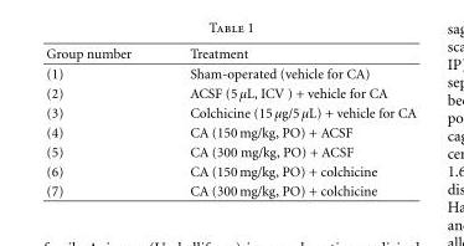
<table><thead><tr><td>Group number</td><td>Treatment</td></tr></thead><tbody><tr><td>(1)</td><td>Sham-operated (vehicle for CA)</td></tr><tr><td>(2)</td><td>ACSF (5 μL, ICV ) + vehicle for CA</td></tr><tr><td>(3)</td><td>Colchicine (15 μg/5 μL) + vehicle for CA</td></tr><tr><td>(4)</td><td>CA (150 mg/kg, PO) + ACSF</td></tr><tr><td>(5)</td><td>CA (300 mg/kg, PO) + ACSF</td></tr><tr><td>(6)</td><td>CA (150 mg/kg, PO) + colchicine</td></tr><tr><td>(7)</td><td>CA (300 mg/kg, PO) + colchicine</td></tr></tbody></table>